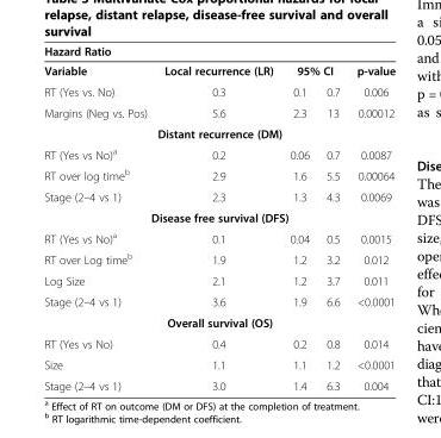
<table><thead><tr><td colspan="5">Hazard Ratio</td></tr><tr><td rowspan="2">Variable RT (Yes vs. No)</td><td rowspan="2">Local recurrence (LR) 0.3</td><td colspan="2">95% CI</td><td rowspan="2">p-value 0.006</td></tr><tr><td>0.1</td><td>0.7</td></tr></thead><tbody><tr><td rowspan="2">Margins (Neg vs. Pos)</td><td>5.6</td><td>2.3</td><td>13</td><td>0.00012</td></tr><tr><td>Distant recurrence (DM)</td><td></td><td></td><td></td></tr><tr><td>RT (Yes vs No)<sup>a</sup></td><td>0.2</td><td>0.06</td><td>0.7</td><td>0.0087</td></tr><tr><td>RT over log time<sup>b</sup></td><td>2.9</td><td>1.6</td><td>5.5</td><td>0.00064</td></tr><tr><td rowspan="2">Stage (2–4 vs 1)</td><td>2.3</td><td>1.3</td><td>4.3</td><td>0.0069</td></tr><tr><td>Disease free survival (DFS)</td><td></td><td></td><td></td></tr><tr><td>RT (Yes vs No)<sup>a</sup></td><td>0.1</td><td>0.04</td><td>0.5</td><td>0.0015</td></tr><tr><td>RT over Log time<sup>b</sup></td><td>1.9</td><td>1.2</td><td>3.2</td><td>0.012</td></tr><tr><td>Log Size</td><td>2.1</td><td>1.2</td><td>3.7</td><td>0.011</td></tr><tr><td rowspan="2">Stage (2–4 vs 1)</td><td>3.6</td><td>1.9</td><td>6.6</td><td>&lt;0.0001</td></tr><tr><td>Overall survival (OS)</td><td></td><td></td><td></td></tr><tr><td>RT (Yes vs No)</td><td>0.4</td><td>0.2</td><td>0.8</td><td>0.014</td></tr><tr><td>Size</td><td>1.1</td><td>1.1</td><td>1.2</td><td>&lt;0.0001</td></tr><tr><td>Stage (2–4 vs 1)</td><td>3.0</td><td>1.4</td><td>6.3</td><td>0.004</td></tr></tbody></table>